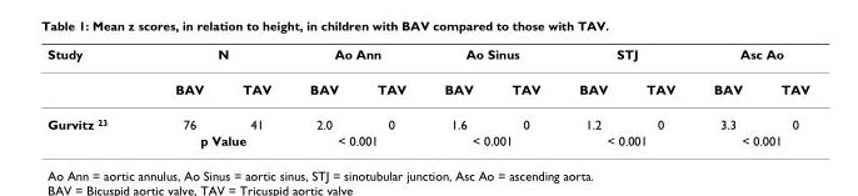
<table><thead><tr><td rowspan="2">Study</td><td colspan="2">N</td><td colspan="2">Ao Ann</td><td colspan="2">Ao Sinus</td><td colspan="2">STJ</td><td colspan="2">Asc Ao</td></tr><tr><td>BAV</td><td>TAV</td><td>BAV</td><td>TAV</td><td>BAV</td><td>TAV</td><td>BAV</td><td>TAV</td><td>BAV</td><td>TAV</td></tr></thead><tbody><tr><td rowspan="2">Gurvitz <sup>23</sup></td><td>76</td><td>41</td><td>2.0</td><td>0</td><td>1.6</td><td>0</td><td>1.2</td><td>0</td><td>3.3</td><td>0</td></tr><tr><td colspan="2">p Value</td><td colspan="2">&lt; 0.001</td><td colspan="2">&lt; 0.001</td><td colspan="2">&lt; 0.001</td><td colspan="2">&lt; 0.001</td></tr></tbody></table>